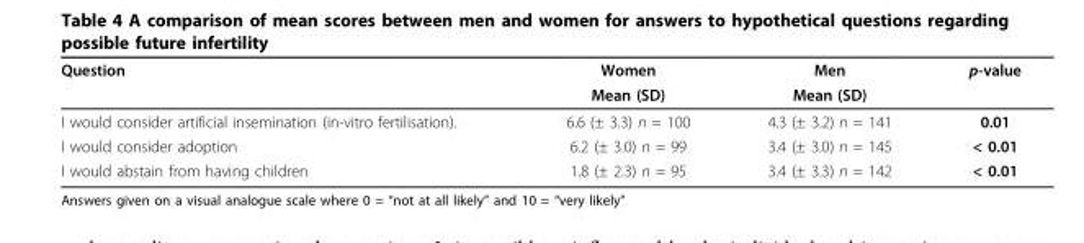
<table><thead><tr><td rowspan="2">Question</td><td rowspan="2">Women Mean (SD)</td><td rowspan="2">Men Mean (SD)</td><td rowspan="2">p-value</td></tr><tr></tr></thead><tbody><tr><td>I would consider artificial insemination (in-vitro fertilisation).</td><td>6.6 (± 3.3) n = 100</td><td>4.3 (± 3.2) n = 141</td><td>0.01</td></tr><tr><td>I would consider adoption</td><td>6.2 (± 3.0) n = 99</td><td>3.4 (± 3.0) n = 145</td><td>&lt; 0.01</td></tr><tr><td>I would abstain from having children</td><td>1.8 (± 2.3) n = 95</td><td>3.4 (± 3.3) n = 142</td><td>&lt; 0.01</td></tr></tbody></table>